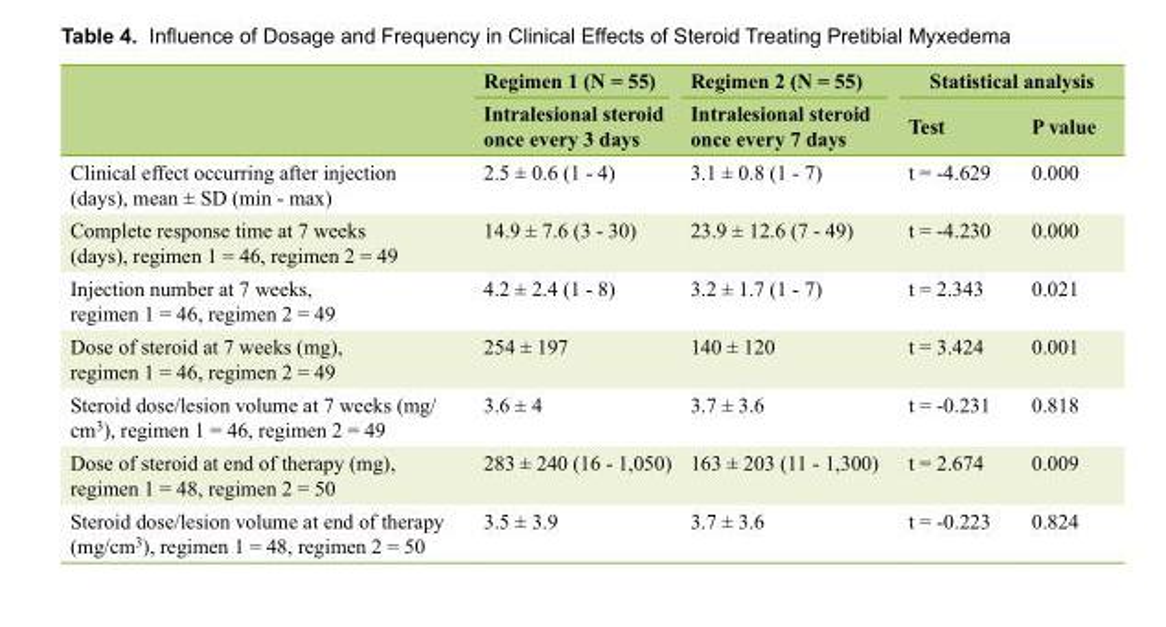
<table><thead><tr><td rowspan="2"></td><td rowspan="2">Regimen 1 (N = 55) Intralesional steroid once every 3 days</td><td rowspan="2">Regimen 2 (N = 55) Intralesional steroid once every 7 days</td><td colspan="2">Statistical analysis</td></tr><tr><td>Test</td><td>P value</td></tr></thead><tbody><tr><td>Clinical effect occurring after injection (days), mean ± SD (min - max)</td><td>2.5 ± 0.6 (1 - 4)</td><td>3.1 ± 0.8 (1 - 7)</td><td>t = -4.629</td><td>0.000</td></tr><tr><td>Complete response time at 7 weeks (days), regimen 1 = 46, regimen 2 = 49</td><td>14.9 ± 7.6 (3 - 30)</td><td>23.9 ± 12.6 (7 - 49)</td><td>t = -4.230</td><td>0.000</td></tr><tr><td>Injection number at 7 weeks, regimen 1 = 46, regimen 2 = 49</td><td>4.2 ± 2.4 (1 - 8)</td><td>3.2 ± 1.7 (1 - 7)</td><td>t = 2.343</td><td>0.021</td></tr><tr><td>Dose of steroid at 7 weeks (mg), regimen 1 = 46, regimen 2 = 49</td><td>254 ± 197</td><td>140 ± 120</td><td>t = 3.424</td><td>0.001</td></tr><tr><td>Steroid dose/lesion volume at 7 weeks (mg/ cm<sup>3</sup>), regimen 1 = 46, regimen 2 = 49</td><td>3.6 ± 4</td><td>3.7 ± 3.6</td><td>t = -0.231</td><td>0.818</td></tr><tr><td>Dose of steroid at end of therapy (mg), regimen 1 = 48, regimen 2 = 50</td><td>283 ± 240 (16 - 1,050)</td><td>163 ± 203 (11 - 1,300)</td><td>t = 2.674</td><td>0.009</td></tr><tr><td>Steroid dose/lesion volume at end of therapy (mg/cm<sup>3</sup>), regimen 1 = 48, regimen 2 = 50</td><td>3.5 ± 3.9</td><td>3.7 ± 3.6</td><td>t = -0.223</td><td>0.824</td></tr></tbody></table>